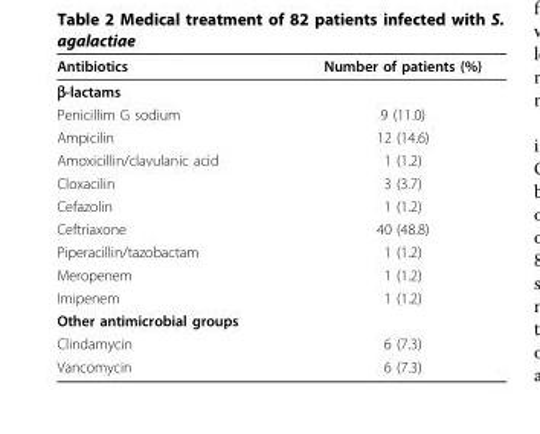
<table><thead><tr><td>Antibiotics</td><td>Number of patients (%)</td></tr></thead><tbody><tr><td colspan="2">β-lactams</td></tr><tr><td>Penicillim G sodium</td><td>9 (11.0)</td></tr><tr><td>Ampicilin</td><td>12 (14.6)</td></tr><tr><td>Amoxicillin/clavulanic acid</td><td>1 (1.2)</td></tr><tr><td>Cloxacilin</td><td>3 (3.7)</td></tr><tr><td>Cefazolin</td><td>1 (1.2)</td></tr><tr><td>Ceftriaxone</td><td>40 (48.8)</td></tr><tr><td>Piperacillin/tazobactam</td><td>1 (1.2)</td></tr><tr><td>Meropenem</td><td>1 (1.2)</td></tr><tr><td>Imipenem</td><td>1 (1.2)</td></tr><tr><td colspan="2">Other antimicrobial groups</td></tr><tr><td>Clindamycin</td><td>6 (7.3)</td></tr><tr><td>Vancomycin</td><td>6 (7.3)</td></tr></tbody></table>